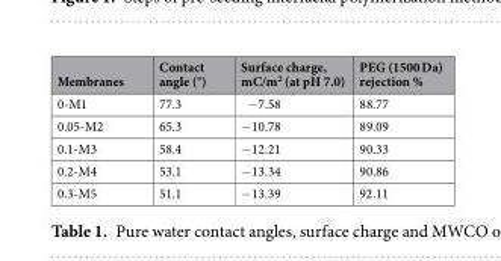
<table><thead><tr><td>Membranes</td><td>Contact angle (°)</td><td>Surface charge, mC/m<sup>2</sup> (at pH 7.0)</td><td>PEG (1500 Da) rejection %</td></tr></thead><tbody><tr><td>0-M1</td><td>77.3</td><td>−7.58</td><td>88.77</td></tr><tr><td>0.05-M2</td><td>65.3</td><td>−10.78</td><td>89.09</td></tr><tr><td>0.1-M3</td><td>58.4</td><td>−12.21</td><td>90.33</td></tr><tr><td>0.2-M4</td><td>53.1</td><td>−13.34</td><td>90.86</td></tr><tr><td>0.3-M5</td><td>51.1</td><td>−13.39</td><td>92.11</td></tr></tbody></table>